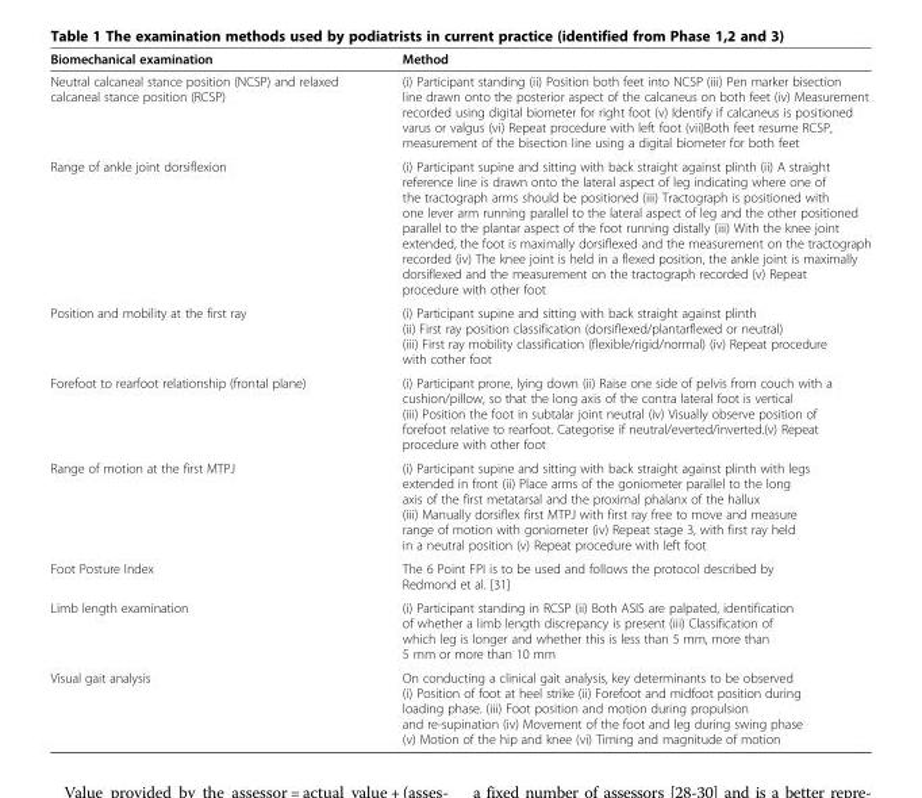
<table><thead><tr><td>Biomechanical examination</td><td>Method</td></tr></thead><tbody><tr><td>Neutral calcaneal stance position (NCSP) and relaxed calcaneal stance position (RCSP)</td><td>(i) Participant standing (ii) Position both feet into NCSP (iii) Pen marker bisection line drawn onto the posterior aspect of the calcaneus on both feet (iv) Measurement recorded using digital biometer for right foot (v) Identify if calcaneus is positioned varus or valgus (vi) Repeat procedure with left foot (vii)Both feet resume RCSP, measurement of the bisection line using a digital biometer for both feet</td></tr><tr><td>Range of ankle joint dorsiflexion</td><td>(i) Participant supine and sitting with back straight against plinth (ii) A straight reference line is drawn onto the lateral aspect of leg indicating where one of the tractograph arms should be positioned (iii) Tractograph is positioned with one lever arm running parallel to the lateral aspect of leg and the other positioned parallel to the plantar aspect of the foot running distally (iii) With the knee joint extended, the foot is maximally dorsiflexed and the measurement on the tractograph recorded (iv) The knee joint is held in a flexed position, the ankle joint is maximally dorsiflexed and the measurement on the tractograph recorded (v) Repeat procedure with other foot</td></tr><tr><td>Position and mobility at the first ray</td><td>(i) Participant supine and sitting with back straight against plinth (ii) First ray position classification (dorsiflexed/plantarflexed or neutral) (iii) First ray mobility classification (flexible/rigid/normal) (iv) Repeat procedure with cother foot</td></tr><tr><td>Forefoot to rearfoot relationship (frontal plane)</td><td>(i) Participant prone, lying down (ii) Raise one side of pelvis from couch with a cushion/pillow, so that the long axis of the contra lateral foot is vertical (iii) Position the foot in subtalar joint neutral (iv) Visually observe position of forefoot relative to rearfoot. Categorise if neutral/everted/inverted.(v) Repeat procedure with other foot</td></tr><tr><td>Range of motion at the first MTPJ</td><td>(i) Participant supine and sitting with back straight against plinth with legs extended in front (ii) Place arms of the goniometer parallel to the long axis of the first metatarsal and the proximal phalanx of the hallux (iii) Manually dorsiflex first MTPJ with first ray free to move and measure range of motion with goniometer (iv) Repeat stage 3, with first ray held in a neutral position (v) Repeat procedure with left foot</td></tr><tr><td>Foot Posture Index</td><td>The 6 Point FPI is to be used and follows the protocol described by Redmond et al. [31]</td></tr><tr><td>Limb length examination</td><td>(i) Participant standing in RCSP (ii) Both ASIS are palpated, identification of whether a limb length discrepancy is present (iii) Classification of which leg is longer and whether this is less than 5 mm, more than 5 mm or more than 10 mm</td></tr><tr><td>Visual gait analysis</td><td>On conducting a clinical gait analysis, key determinants to be observed (i) Position of foot at heel strike (ii) Forefoot and midfoot position during loading phase. (iii) Foot position and motion during propulsion and re-supination (iv) Movement of the foot and leg during swing phase (v) Motion of the hip and knee (vi) Timing and magnitude of motion</td></tr></tbody></table>